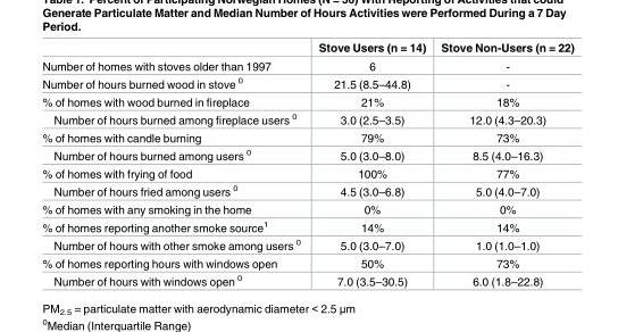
<table><thead><tr><td></td><td>Stove Users (n = 14)</td><td>Stove Non-Users (n = 22)</td></tr></thead><tbody><tr><td>Number of homes with stoves older than 1997</td><td>6</td><td>-</td></tr><tr><td>Number of hours burned wood in stove <sup>0</sup></td><td>21.5 (8.5–44.8)</td><td>-</td></tr><tr><td>% of homes with wood burned in fireplace</td><td>21%</td><td>18%</td></tr><tr><td>Number of hours burned among fireplace users <sup>0</sup></td><td>3.0 (2.5–3.5)</td><td>12.0 (4.3–20.3)</td></tr><tr><td>% of homes with candle burning</td><td>79%</td><td>73%</td></tr><tr><td>Number of hours burned among users <sup>0</sup></td><td>5.0 (3.0–8.0)</td><td>8.5 (4.0–16.3)</td></tr><tr><td>% of homes with frying of food</td><td>100%</td><td>77%</td></tr><tr><td>Number of hours fried among users <sup>0</sup></td><td>4.5 (3.0–6.8)</td><td>5.0 (4.0–7.0)</td></tr><tr><td>% of homes with any smoking in the home</td><td>0%</td><td>0%</td></tr><tr><td>% of homes reporting another smoke source<sup>1</sup></td><td>14%</td><td>14%</td></tr><tr><td>Number of hours with other smoke among users <sup>0</sup></td><td>5.0 (3.0–7.0)</td><td>1.0 (1.0–1.0)</td></tr><tr><td>% of homes reporting hours with windows open</td><td>50%</td><td>73%</td></tr><tr><td>Number of hours with windows open <sup>0</sup></td><td>7.0 (3.5–30.5)</td><td>6.0 (1.8–22.8)</td></tr></tbody></table>